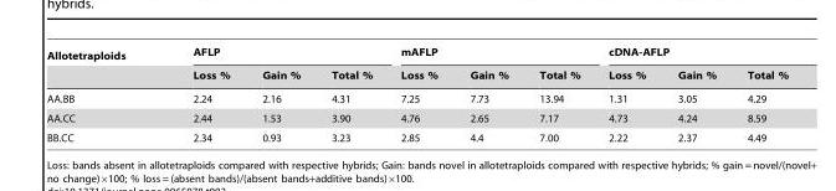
<table><thead><tr><td rowspan="2">Allotetraploids</td><td colspan="3">AFLP</td><td colspan="3">mAFLP</td><td colspan="3">cDNA-AFLP</td></tr><tr><td>Loss %</td><td>Gain %</td><td>Total %</td><td>Loss %</td><td>Gain %</td><td>Total %</td><td>Loss %</td><td>Gain %</td><td>Total %</td></tr></thead><tbody><tr><td>AA.BB</td><td>2.24</td><td>2.16</td><td>4.31</td><td>7.25</td><td>7.73</td><td>13.94</td><td>1.31</td><td>3.05</td><td>4.29</td></tr><tr><td>AA.CC</td><td>2.44</td><td>1.53</td><td>3.90</td><td>4.76</td><td>2.65</td><td>7.17</td><td>4.73</td><td>4.24</td><td>8.59</td></tr><tr><td>BB.CC</td><td>2.34</td><td>0.93</td><td>3.23</td><td>2.85</td><td>4.4</td><td>7.00</td><td>2.22</td><td>2.37</td><td>4.49</td></tr></tbody></table>